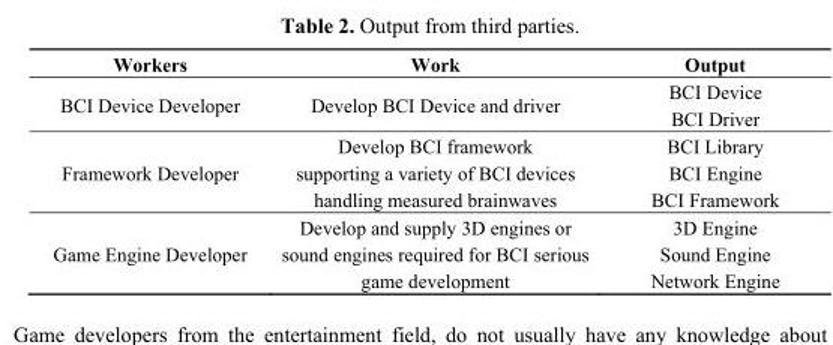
<table><thead><tr><td>Workers</td><td>Work</td><td>Output</td></tr></thead><tbody><tr><td>BCI Device Developer</td><td>Develop BCI Device and driver</td><td>BCI Device BCI Driver</td></tr><tr><td>Framework Developer</td><td>Develop BCI framework supporting a variety of BCI devices handling measured brainwaves</td><td>BCI Library BCI Engine BCI Framework</td></tr><tr><td>Game Engine Developer</td><td>Develop and supply 3D engines or sound engines required for BCI serious game development</td><td>3D Engine Sound Engine Network Engine</td></tr></tbody></table>